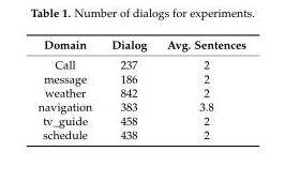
<table><thead><tr><td>Domain</td><td>Dialog</td><td>Avg. Sentences</td></tr></thead><tbody><tr><td>Call</td><td>237</td><td>2</td></tr><tr><td>message</td><td>186</td><td>2</td></tr><tr><td>weather</td><td>842</td><td>2</td></tr><tr><td>navigation</td><td>383</td><td>3.8</td></tr><tr><td>tv_guide</td><td>458</td><td>2</td></tr><tr><td>schedule</td><td>438</td><td>2</td></tr></tbody></table>